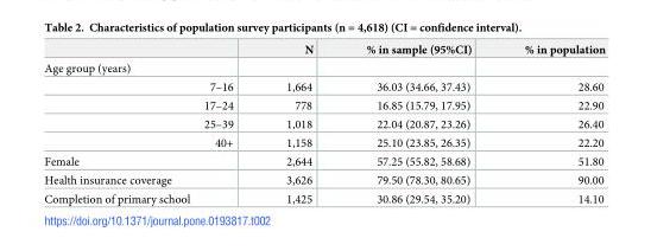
<table><thead><tr><td></td><td>N</td><td>% in sample (95%CI)</td><td>% in population</td></tr></thead><tbody><tr><td colspan="4">Age group (years)</td></tr><tr><td>7–16</td><td>1,664</td><td>36.03 (34.66, 37.43)</td><td>28.60</td></tr><tr><td>17–24</td><td>778</td><td>16.85 (15.79, 17.95)</td><td>22.90</td></tr><tr><td>25–39</td><td>1,018</td><td>22.04 (20.87, 23.26)</td><td>26.40</td></tr><tr><td>40+</td><td>1,158</td><td>25.10 (23.85, 26.35)</td><td>22.20</td></tr><tr><td>Female</td><td>2,644</td><td>57.25 (55.82, 58.68)</td><td>51.80</td></tr><tr><td>Health insurance coverage</td><td>3,626</td><td>79.50 (78.30, 80.65)</td><td>90.00</td></tr><tr><td>Completion of primary school</td><td>1,425</td><td>30.86 (29.54, 35.20)</td><td>14.10</td></tr></tbody></table>